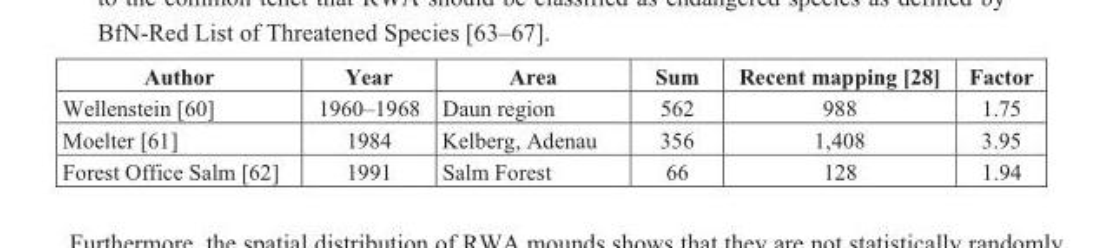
<table><thead><tr><td>Author</td><td>Year</td><td>Area</td><td>Sum</td><td>Recent mapping [28]</td><td>Factor</td></tr></thead><tbody><tr><td>Wellenstein [60]</td><td>1960–1968</td><td>Daun region</td><td>562</td><td>988</td><td>1.75</td></tr><tr><td>Moelter [61]</td><td>1984</td><td>Kelberg, Adenau</td><td>356</td><td>1,408</td><td>3.95</td></tr><tr><td>Forest Office Salm [62]</td><td>1991</td><td>Salm Forest</td><td>66</td><td>128</td><td>1.94</td></tr></tbody></table>